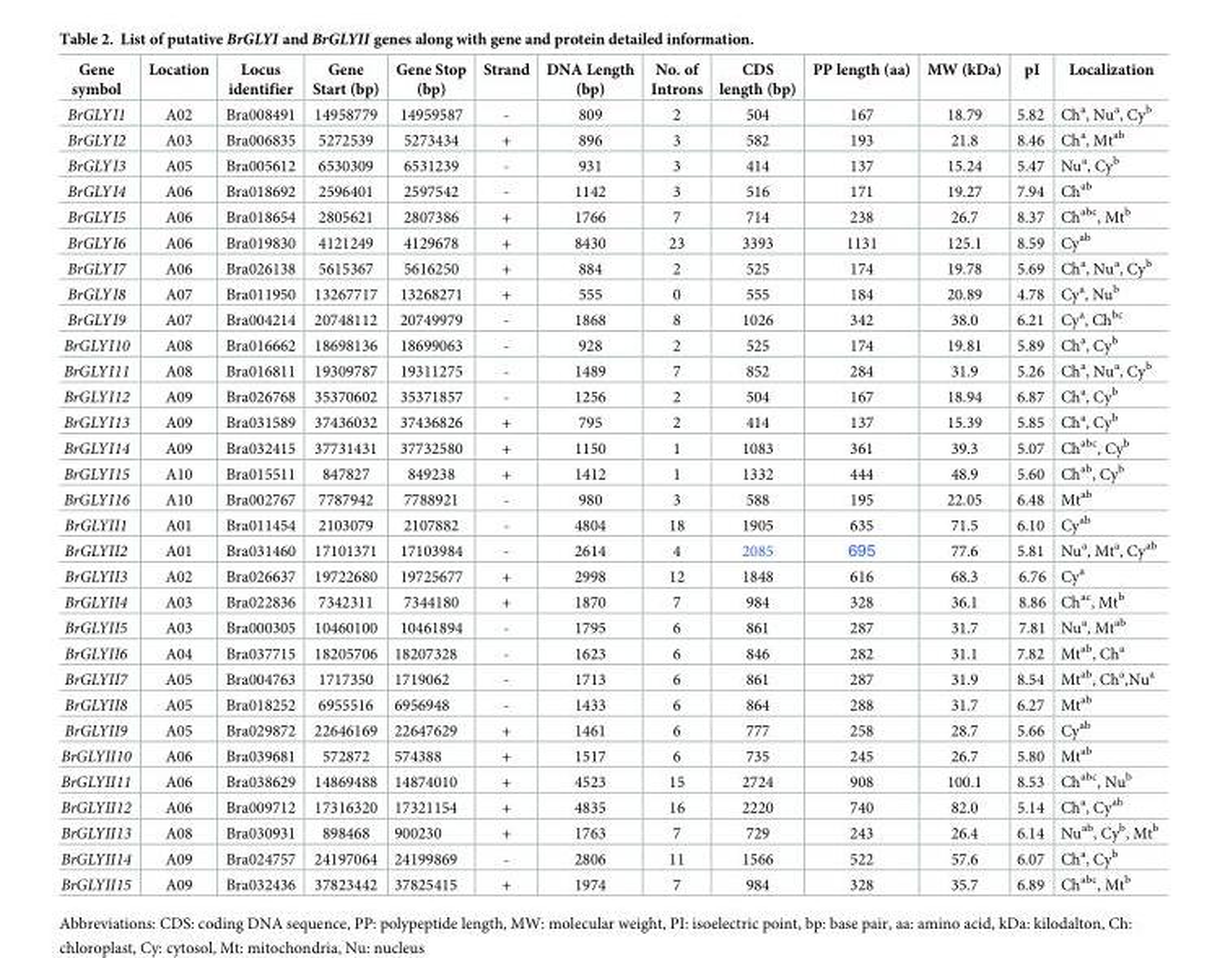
<table><thead><tr><td>Gene symbol</td><td>Location</td><td>Locus identifier</td><td>Gene Start (bp)</td><td>Gene Stop (bp)</td><td>Strand</td><td>DNA Length (bp)</td><td>No. of Introns</td><td>CDS length (bp)</td><td>PP length (aa)</td><td>MW (kDa)</td><td>pI</td><td>Localization</td></tr></thead><tbody><tr><td>BrGLYΙ1</td><td>A02</td><td>Bra008491</td><td>14958779</td><td>14959587</td><td>-</td><td>809</td><td>2</td><td>504</td><td>167</td><td>18.79</td><td>5.82</td><td>Ch<sup>a</sup>, Nu<sup>a</sup>, Cy<sup>b</sup></td></tr><tr><td>BrGLYΙ2</td><td>A03</td><td>Bra006835</td><td>5272539</td><td>5273434</td><td>+</td><td>896</td><td>3</td><td>582</td><td>193</td><td>21.8</td><td>8.46</td><td>Ch<sup>a</sup>, Mt<sup>ab</sup></td></tr><tr><td>BrGLYΙ3</td><td>A05</td><td>Bra005612</td><td>6530309</td><td>6531239</td><td>-</td><td>931</td><td>3</td><td>414</td><td>137</td><td>15.24</td><td>5.47</td><td>Nu<sup>a</sup>, Cy<sup>b</sup></td></tr><tr><td>BrGLYΙ4</td><td>A06</td><td>Bra018692</td><td>2596401</td><td>2597542</td><td>-</td><td>1142</td><td>3</td><td>516</td><td>171</td><td>19.27</td><td>7.94</td><td>Ch<sup>ab</sup></td></tr><tr><td>BrGLYΙ5</td><td>A06</td><td>Bra018654</td><td>2805621</td><td>2807386</td><td>+</td><td>1766</td><td>7</td><td>714</td><td>238</td><td>26.7</td><td>8.37</td><td>Ch<sup>abc</sup>, Mt<sup>b</sup></td></tr><tr><td>BrGLYΙ6</td><td>A06</td><td>Bra019830</td><td>4121249</td><td>4129678</td><td>+</td><td>8430</td><td>23</td><td>3393</td><td>1131</td><td>125.1</td><td>8.59</td><td>Cy<sup>ab</sup></td></tr><tr><td>BrGLYΙ7</td><td>A06</td><td>Bra026138</td><td>5615367</td><td>5616250</td><td>+</td><td>884</td><td>2</td><td>525</td><td>174</td><td>19.78</td><td>5.69</td><td>Ch<sup>a</sup>, Nu<sup>a</sup>, Cy<sup>b</sup></td></tr><tr><td>BrGLYΙ8</td><td>A07</td><td>Bra011950</td><td>13267717</td><td>13268271</td><td>+</td><td>555</td><td>0</td><td>555</td><td>184</td><td>20.89</td><td>4.78</td><td>Cy<sup>a</sup>, Nu<sup>b</sup></td></tr><tr><td>BrGLYΙ9</td><td>A07</td><td>Bra004214</td><td>20748112</td><td>20749979</td><td>-</td><td>1868</td><td>8</td><td>1026</td><td>342</td><td>38.0</td><td>6.21</td><td>Cy<sup>a</sup>, Ch<sup>bc</sup></td></tr><tr><td>BrGLYΙ10</td><td>A08</td><td>Bra016662</td><td>18698136</td><td>18699063</td><td>-</td><td>928</td><td>2</td><td>525</td><td>174</td><td>19.81</td><td>5.89</td><td>Ch<sup>a</sup>, Cy<sup>b</sup></td></tr><tr><td>BrGLYΙ11</td><td>A08</td><td>Bra016811</td><td>19309787</td><td>19311275</td><td>-</td><td>1489</td><td>7</td><td>852</td><td>284</td><td>31.9</td><td>5.26</td><td>Ch<sup>a</sup>, Nu<sup>a</sup>, Cy<sup>b</sup></td></tr><tr><td>BrGLYΙ12</td><td>A09</td><td>Bra026768</td><td>35370602</td><td>35371857</td><td>-</td><td>1256</td><td>2</td><td>504</td><td>167</td><td>18.94</td><td>6.87</td><td>Ch<sup>a</sup>, Cy<sup>b</sup></td></tr><tr><td>BrGLYΙ13</td><td>A09</td><td>Bra031589</td><td>37436032</td><td>37436826</td><td>+</td><td>795</td><td>2</td><td>414</td><td>137</td><td>15.39</td><td>5.85</td><td>Ch<sup>a</sup>, Cy<sup>b</sup></td></tr><tr><td>BrGLYΙ14</td><td>A09</td><td>Bra032415</td><td>37731431</td><td>37732580</td><td>+</td><td>1150</td><td>1</td><td>1083</td><td>361</td><td>39.3</td><td>5.07</td><td>Ch<sup>abc</sup>, Cy<sup>b</sup></td></tr><tr><td>BrGLYΙ15</td><td>A10</td><td>Bra015511</td><td>847827</td><td>849238</td><td>+</td><td>1412</td><td>1</td><td>1332</td><td>444</td><td>48.9</td><td>5.60</td><td>Ch<sup>ab</sup>, Cy<sup>b</sup></td></tr><tr><td>BrGLYΙ16</td><td>A10</td><td>Bra002767</td><td>7787942</td><td>7788921</td><td>-</td><td>980</td><td>3</td><td>588</td><td>195</td><td>22.05</td><td>6.48</td><td>Mt<sup>ab</sup></td></tr><tr><td>BrGLYII1</td><td>A01</td><td>Bra011454</td><td>2103079</td><td>2107882</td><td>-</td><td>4804</td><td>18</td><td>1905</td><td>635</td><td>71.5</td><td>6.10</td><td>Cy<sup>ab</sup></td></tr><tr><td>BrGLYII2</td><td>A01</td><td>Bra031460</td><td>17101371</td><td>17103984</td><td>-</td><td>2614</td><td>4</td><td>2085</td><td>695</td><td>77.6</td><td>5.81</td><td>Nu<sup>a</sup>, Mt<sup>a</sup>, Cy<sup>ab</sup></td></tr><tr><td>BrGLYII3</td><td>A02</td><td>Bra026637</td><td>19722680</td><td>19725677</td><td>+</td><td>2998</td><td>12</td><td>1848</td><td>616</td><td>68.3</td><td>6.76</td><td>Cy<sup>a</sup></td></tr><tr><td>BrGLYII4</td><td>A03</td><td>Bra022836</td><td>7342311</td><td>7344180</td><td>+</td><td>1870</td><td>7</td><td>984</td><td>328</td><td>36.1</td><td>8.86</td><td>Ch<sup>ac</sup>, Mt<sup>b</sup></td></tr><tr><td>BrGLYII5</td><td>A03</td><td>Bra000305</td><td>10460100</td><td>10461894</td><td>-</td><td>1795</td><td>6</td><td>861</td><td>287</td><td>31.7</td><td>7.81</td><td>Nu<sup>a</sup>, Mt<sup>ab</sup></td></tr><tr><td>BrGLYII6</td><td>A04</td><td>Bra037715</td><td>18205706</td><td>18207328</td><td>-</td><td>1623</td><td>6</td><td>846</td><td>282</td><td>31.1</td><td>7.82</td><td>Mt<sup>ab</sup>, Ch<sup>a</sup></td></tr><tr><td>BrGLYII7</td><td>A05</td><td>Bra004763</td><td>1717350</td><td>1719062</td><td>-</td><td>1713</td><td>6</td><td>861</td><td>287</td><td>31.9</td><td>8.54</td><td>Mt<sup>ab</sup>, Ch<sup>a</sup>,Nu<sup>a</sup></td></tr><tr><td>BrGLYII8</td><td>A05</td><td>Bra018252</td><td>6955516</td><td>6956948</td><td>-</td><td>1433</td><td>6</td><td>864</td><td>288</td><td>31.7</td><td>6.27</td><td>Mt<sup>ab</sup></td></tr><tr><td>BrGLYII9</td><td>A05</td><td>Bra029872</td><td>22646169</td><td>22647629</td><td>+</td><td>1461</td><td>6</td><td>777</td><td>258</td><td>28.7</td><td>5.66</td><td>Cy<sup>ab</sup></td></tr><tr><td>BrGLYII10</td><td>A06</td><td>Bra039681</td><td>572872</td><td>574388</td><td>+</td><td>1517</td><td>6</td><td>735</td><td>245</td><td>26.7</td><td>5.80</td><td>Mt<sup>ab</sup></td></tr><tr><td>BrGLYII11</td><td>A06</td><td>Bra038629</td><td>14869488</td><td>14874010</td><td>+</td><td>4523</td><td>15</td><td>2724</td><td>908</td><td>100.1</td><td>8.53</td><td>Ch<sup>abc</sup>, Nu<sup>b</sup></td></tr><tr><td>BrGLYII12</td><td>A06</td><td>Bra009712</td><td>17316320</td><td>17321154</td><td>+</td><td>4835</td><td>16</td><td>2220</td><td>740</td><td>82.0</td><td>5.14</td><td>Ch<sup>a</sup>, Cy<sup>ab</sup></td></tr><tr><td>BrGLYII13</td><td>A08</td><td>Bra030931</td><td>898468</td><td>900230</td><td>+</td><td>1763</td><td>7</td><td>729</td><td>243</td><td>26.4</td><td>6.14</td><td>Nu<sup>ab</sup>, Cy<sup>b</sup>, Mt<sup>b</sup></td></tr><tr><td>BrGLYII14</td><td>A09</td><td>Bra024757</td><td>24197064</td><td>24199869</td><td>-</td><td>2806</td><td>11</td><td>1566</td><td>522</td><td>57.6</td><td>6.07</td><td>Ch<sup>a</sup>, Cy<sup>b</sup></td></tr><tr><td>BrGLYII15</td><td>A09</td><td>Bra032436</td><td>37823442</td><td>37825415</td><td>+</td><td>1974</td><td>7</td><td>984</td><td>328</td><td>35.7</td><td>6.89</td><td>Ch<sup>abc</sup>, Mt<sup>b</sup></td></tr></tbody></table>